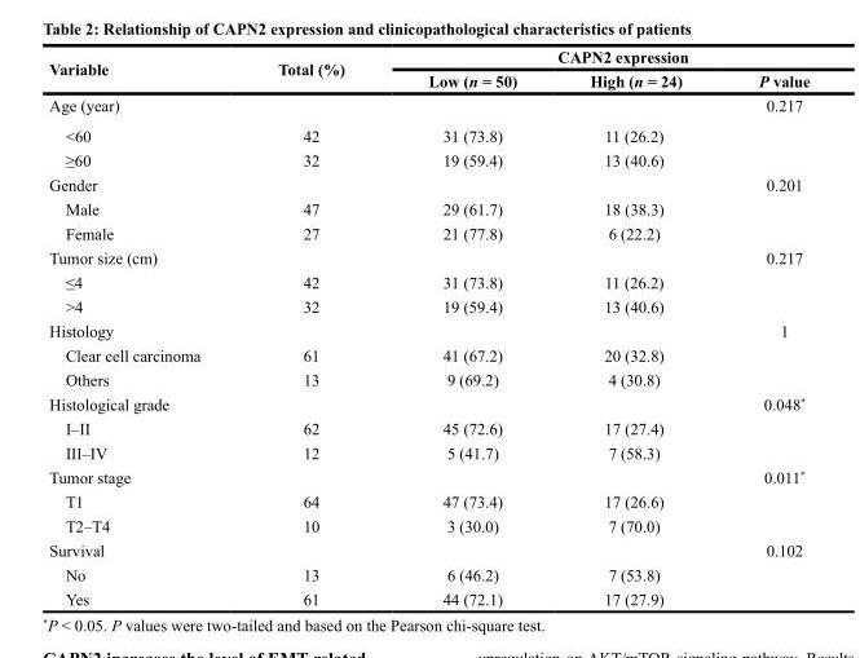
<table><thead><tr><td rowspan="2">Variable</td><td rowspan="2">Total (%)</td><td colspan="3">CAPN2 expression</td></tr><tr><td>Low (n = 50)</td><td>High (n = 24)</td><td>P value</td></tr></thead><tbody><tr><td>Age (year)</td><td></td><td></td><td></td><td>0.217</td></tr><tr><td>&lt;60</td><td>42</td><td>31 (73.8)</td><td>11 (26.2)</td><td></td></tr><tr><td>≥60</td><td>32</td><td>19 (59.4)</td><td>13 (40.6)</td><td></td></tr><tr><td>Gender</td><td></td><td></td><td></td><td>0.201</td></tr><tr><td>Male</td><td>47</td><td>29 (61.7)</td><td>18 (38.3)</td><td></td></tr><tr><td>Female</td><td>27</td><td>21 (77.8)</td><td>6 (22.2)</td><td></td></tr><tr><td>Tumor size (cm)</td><td></td><td></td><td></td><td>0.217</td></tr><tr><td>≤4</td><td>42</td><td>31 (73.8)</td><td>11 (26.2)</td><td></td></tr><tr><td>&gt;4</td><td>32</td><td>19 (59.4)</td><td>13 (40.6)</td><td></td></tr><tr><td>Histology</td><td></td><td></td><td></td><td>1</td></tr><tr><td>Clear cell carcinoma</td><td>61</td><td>41 (67.2)</td><td>20 (32.8)</td><td></td></tr><tr><td>Others</td><td>13</td><td>9 (69.2)</td><td>4 (30.8)</td><td></td></tr><tr><td>Histological grade</td><td></td><td></td><td></td><td>0.048*</td></tr><tr><td>I–II</td><td>62</td><td>45 (72.6)</td><td>17 (27.4)</td><td></td></tr><tr><td>III–IV</td><td>12</td><td>5 (41.7)</td><td>7 (58.3)</td><td></td></tr><tr><td>Tumor stage</td><td></td><td></td><td></td><td>0.011*</td></tr><tr><td>T1</td><td>64</td><td>47 (73.4)</td><td>17 (26.6)</td><td></td></tr><tr><td>T2–T4</td><td>10</td><td>3 (30.0)</td><td>7 (70.0)</td><td></td></tr><tr><td>Survival</td><td></td><td></td><td></td><td>0.102</td></tr><tr><td>No</td><td>13</td><td>6 (46.2)</td><td>7 (53.8)</td><td></td></tr><tr><td>Yes</td><td>61</td><td>44 (72.1)</td><td>17 (27.9)</td><td></td></tr></tbody></table>